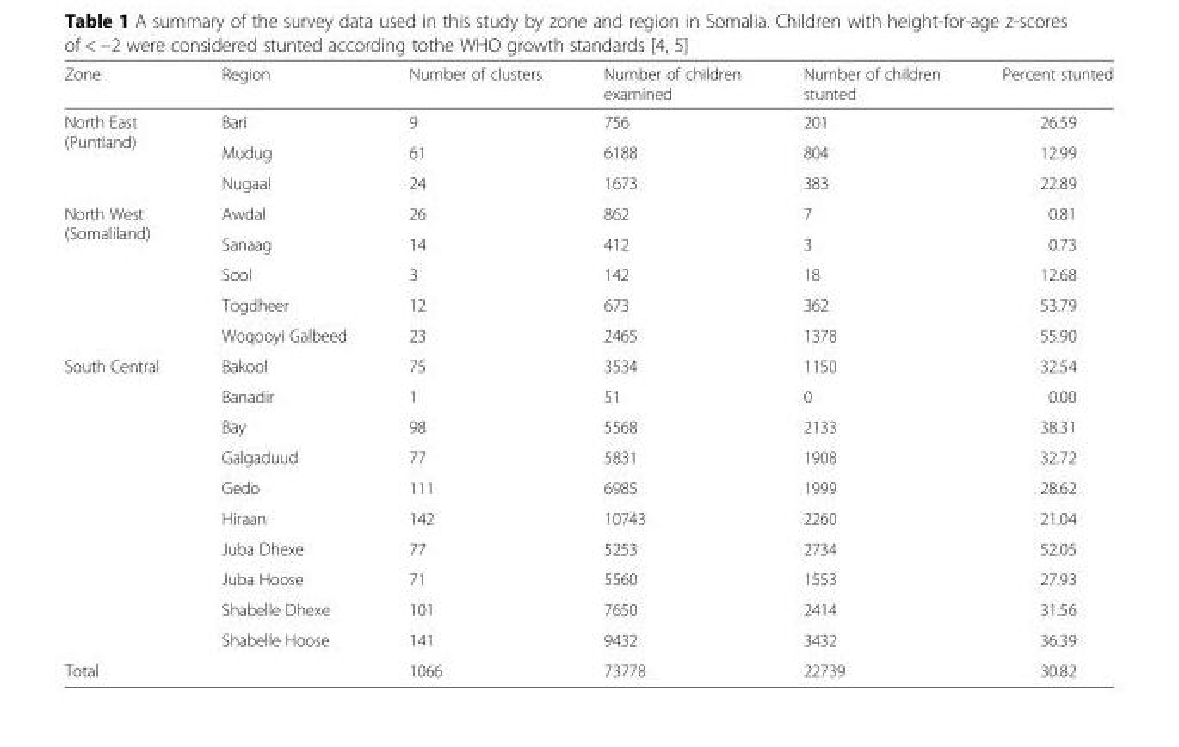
<table><thead><tr><td>Zone</td><td>Region</td><td>Number of clusters</td><td>Number of children examined</td><td>Number of children stunted</td><td>Percent stunted</td></tr></thead><tbody><tr><td rowspan="3">North East (Puntland)</td><td>Bari</td><td>9</td><td>756</td><td>201</td><td>26.59</td></tr><tr><td>Mudug</td><td>61</td><td>6188</td><td>804</td><td>12.99</td></tr><tr><td>Nugaal</td><td>24</td><td>1673</td><td>383</td><td>22.89</td></tr><tr><td rowspan="5">North West (Somaliland)</td><td>Awdal</td><td>26</td><td>862</td><td>7</td><td>0.81</td></tr><tr><td>Sanaag</td><td>14</td><td>412</td><td>3</td><td>0.73</td></tr><tr><td>Sool</td><td>3</td><td>142</td><td>18</td><td>12.68</td></tr><tr><td>Togdheer</td><td>12</td><td>673</td><td>362</td><td>53.79</td></tr><tr><td>Woqooyi Galbeed</td><td>23</td><td>2465</td><td>1378</td><td>55.90</td></tr><tr><td rowspan="10">South Central</td><td>Bakool</td><td>75</td><td>3534</td><td>1150</td><td>32.54</td></tr><tr><td>Banadir</td><td>1</td><td>51</td><td>0</td><td>0.00</td></tr><tr><td>Bay</td><td>98</td><td>5568</td><td>2133</td><td>38.31</td></tr><tr><td>Galgaduud</td><td>77</td><td>5831</td><td>1908</td><td>32.72</td></tr><tr><td>Gedo</td><td>111</td><td>6985</td><td>1999</td><td>28.62</td></tr><tr><td>Hiraan</td><td>142</td><td>10743</td><td>2260</td><td>21.04</td></tr><tr><td>Juba Dhexe</td><td>77</td><td>5253</td><td>2734</td><td>52.05</td></tr><tr><td>Juba Hoose</td><td>71</td><td>5560</td><td>1553</td><td>27.93</td></tr><tr><td>Shabelle Dhexe</td><td>101</td><td>7650</td><td>2414</td><td>31.56</td></tr><tr><td>Shabelle Hoose</td><td>141</td><td>9432</td><td>3432</td><td>36.39</td></tr><tr><td>Total</td><td></td><td>1066</td><td>73778</td><td>22739</td><td>30.82</td></tr></tbody></table>